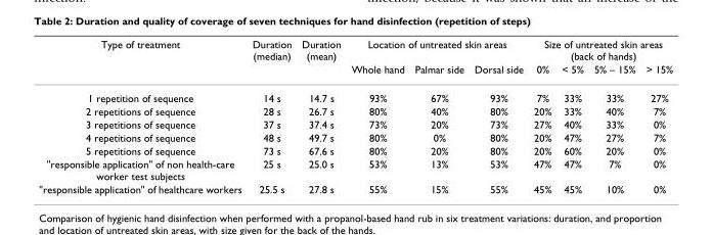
<table><thead><tr><td rowspan="2">Type of treatment</td><td rowspan="2">Duration (median)</td><td rowspan="2">Duration (mean)</td><td colspan="3">Location of untreated skin areas</td><td colspan="4">Size of untreated skin areas (back of hands)</td></tr><tr><td>Whole hand</td><td>Palmar side</td><td>Dorsal side</td><td>0%</td><td>&lt; 5%</td><td>5% – 15%</td><td>&gt; 15%</td></tr></thead><tbody><tr><td>1 repetition of sequence</td><td>14 s</td><td>14.7 s</td><td>93%</td><td>67%</td><td>93%</td><td>7%</td><td>33%</td><td>33%</td><td>27%</td></tr><tr><td>2 repetitions of sequence</td><td>28 s</td><td>26.7 s</td><td>80%</td><td>40%</td><td>80%</td><td>20%</td><td>33%</td><td>40%</td><td>7%</td></tr><tr><td>3 repetitions of sequence</td><td>37 s</td><td>37.4 s</td><td>73%</td><td>20%</td><td>73%</td><td>27%</td><td>40%</td><td>33%</td><td>0%</td></tr><tr><td>4 repetitions of sequence</td><td>48 s</td><td>49.7 s</td><td>80%</td><td>0%</td><td>80%</td><td>20%</td><td>47%</td><td>27%</td><td>7%</td></tr><tr><td>5 repetitions of sequence</td><td>73 s</td><td>67.6 s</td><td>80%</td><td>20%</td><td>80%</td><td>20%</td><td>60%</td><td>20%</td><td>0%</td></tr><tr><td>&quot;responsible application&quot; of non health-care worker test subjects</td><td>25 s</td><td>25.0 s</td><td>53%</td><td>13%</td><td>53%</td><td>47%</td><td>47%</td><td>7%</td><td>0%</td></tr><tr><td>&quot;responsible application&quot; of healthcare workers</td><td>25.5 s</td><td>27.8 s</td><td>55%</td><td>15%</td><td>55%</td><td>45%</td><td>45%</td><td>10%</td><td>0%</td></tr></tbody></table>